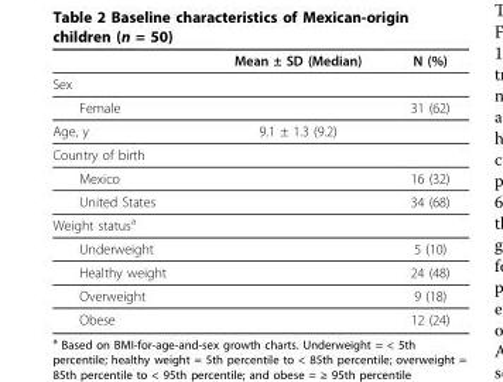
<table><thead><tr><td></td><td>Mean ± SD (Median)</td><td>N (%)</td></tr></thead><tbody><tr><td colspan="3">Sex</td></tr><tr><td>Female</td><td></td><td>31 (62)</td></tr><tr><td>Age, y</td><td>9.1 ± 1.3 (9.2)</td><td></td></tr><tr><td colspan="3">Country of birth</td></tr><tr><td>Mexico</td><td></td><td>16 (32)</td></tr><tr><td>United States</td><td></td><td>34 (68)</td></tr><tr><td colspan="3">Weight status<sup>a</sup></td></tr><tr><td>Underweight</td><td></td><td>5 (10)</td></tr><tr><td>Healthy weight</td><td></td><td>24 (48)</td></tr><tr><td>Overweight</td><td></td><td>9 (18)</td></tr><tr><td>Obese</td><td></td><td>12 (24)</td></tr></tbody></table>